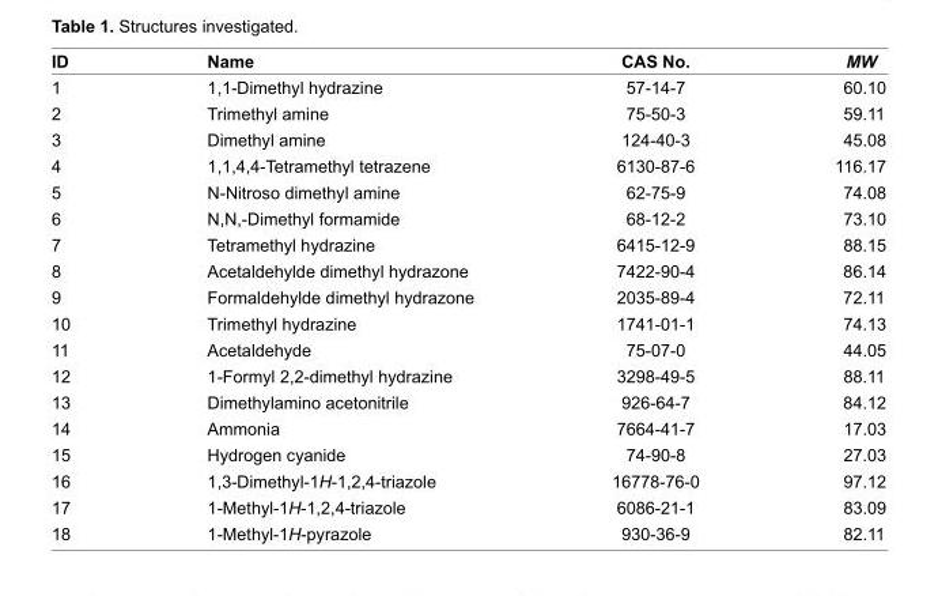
<table><thead><tr><td>ID</td><td>Name</td><td>CAS No.</td><td>MW</td></tr></thead><tbody><tr><td>1</td><td>1,1-Dimethyl hydrazine</td><td>57-14-7</td><td>60.10</td></tr><tr><td>2</td><td>Trimethyl amine</td><td>75-50-3</td><td>59.11</td></tr><tr><td>3</td><td>Dimethyl amine</td><td>124-40-3</td><td>45.08</td></tr><tr><td>4</td><td>1,1,4,4-Tetramethyl tetrazene</td><td>6130-87-6</td><td>116.17</td></tr><tr><td>5</td><td>N-Nitroso dimethyl amine</td><td>62-75-9</td><td>74.08</td></tr><tr><td>6</td><td>N,N,-Dimethyl formamide</td><td>68-12-2</td><td>73.10</td></tr><tr><td>7</td><td>Tetramethyl hydrazine</td><td>6415-12-9</td><td>88.15</td></tr><tr><td>8</td><td>Acetaldehylde dimethyl hydrazone</td><td>7422-90-4</td><td>86.14</td></tr><tr><td>9</td><td>Formaldehylde dimethyl hydrazone</td><td>2035-89-4</td><td>72.11</td></tr><tr><td>10</td><td>Trimethyl hydrazine</td><td>1741-01-1</td><td>74.13</td></tr><tr><td>11</td><td>Acetaldehyde</td><td>75-07-0</td><td>44.05</td></tr><tr><td>12</td><td>1-Formyl 2,2-dimethyl hydrazine</td><td>3298-49-5</td><td>88.11</td></tr><tr><td>13</td><td>Dimethylamino acetonitrile</td><td>926-64-7</td><td>84.12</td></tr><tr><td>14</td><td>Ammonia</td><td>7664-41-7</td><td>17.03</td></tr><tr><td>15</td><td>Hydrogen cyanide</td><td>74-90-8</td><td>27.03</td></tr><tr><td>16</td><td>1,3-Dimethyl-1H-1,2,4-triazole</td><td>16778-76-0</td><td>97.12</td></tr><tr><td>17</td><td>1-Methyl-1H-1,2,4-triazole</td><td>6086-21-1</td><td>83.09</td></tr><tr><td>18</td><td>1-Methyl-1H-pyrazole</td><td>930-36-9</td><td>82.11</td></tr></tbody></table>